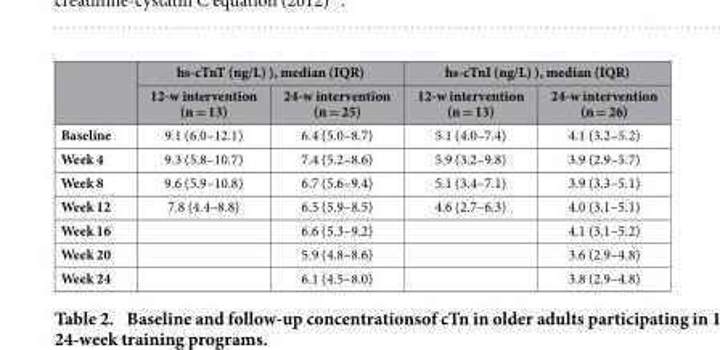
<table><thead><tr><td rowspan="2"></td><td colspan="2">hs-cTnT (ng/L) ), median (IQR)</td><td colspan="2">hs-cTnI (ng/L) ), median (IQR)</td></tr><tr><td>12-w intervention (n = 13)</td><td>24-w intervention (n = 25)</td><td>12-w intervention (n = 13)</td><td>24-w intervention (n = 26)</td></tr></thead><tbody><tr><td>Baseline</td><td>9.1 (6.0–12.1)</td><td>6.4 (5.0–8.7)</td><td>5.1 (4.0–7.4)</td><td>4.1 (3.2–5.2)</td></tr><tr><td>Week 4</td><td>9.3 (5.8–10.7)</td><td>7.4 (5.2–8.6)</td><td>5.9 (3.2–9.8)</td><td>3.9 (2.9–5.7)</td></tr><tr><td>Week 8</td><td>9.6 (5.9–10.8)</td><td>6.7 (5.6–9.4)</td><td>5.1 (3.4–7.1)</td><td>3.9 (3.3–5.1)</td></tr><tr><td>Week 12</td><td>7.8 (4.4–8.8)</td><td>6.5 (5.9–8.5)</td><td>4.6 (2.7–6.3)</td><td>4.0 (3.1–5.1)</td></tr><tr><td>Week 16</td><td></td><td>6.6 (5.3–9.2)</td><td></td><td>4.1 (3.1–5.2)</td></tr><tr><td>Week 20</td><td></td><td>5.9 (4.8–8.6)</td><td></td><td>3.6 (2.9–4.8)</td></tr><tr><td>Week 24</td><td></td><td>6.1 (4.5–8.0)</td><td></td><td>3.8 (2.9–4.8)</td></tr></tbody></table>